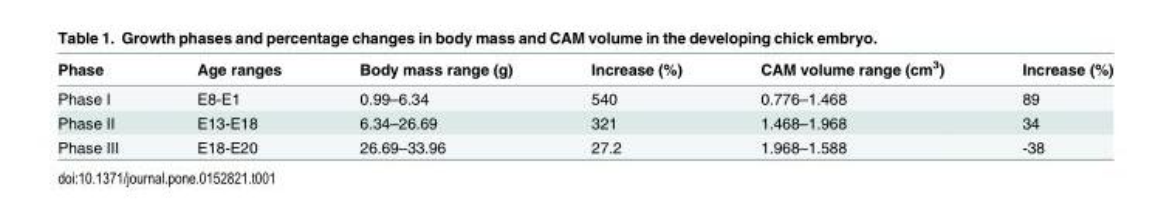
<table><thead><tr><td>Phase</td><td>Age ranges</td><td>Body mass range (g)</td><td>Increase (%)</td><td>CAM volume range (cm<sup>3</sup>)</td><td>Increase (%)</td></tr></thead><tbody><tr><td>Phase I</td><td>E8-E1</td><td>0.99–6.34</td><td>540</td><td>0.776–1.468</td><td>89</td></tr><tr><td>Phase II</td><td>E13-E18</td><td>6.34–26.69</td><td>321</td><td>1.468–1.968</td><td>34</td></tr><tr><td>Phase III</td><td>E18-E20</td><td>26.69–33.96</td><td>27.2</td><td>1.968–1.588</td><td>-38</td></tr></tbody></table>